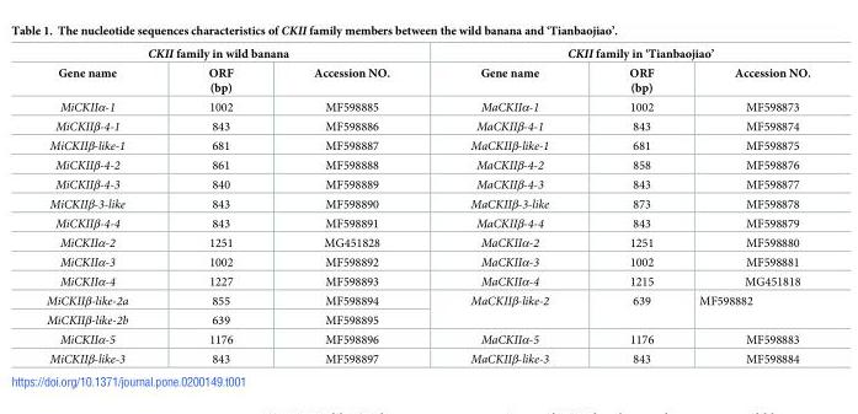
<table><thead><tr><td colspan="3">CKII family in wild banana</td><td colspan="3">CKII family in ‘Tianbaojiao’</td></tr><tr><td>Gene name</td><td>ORF (bp)</td><td>Accession NO.</td><td>Gene name</td><td>ORF (bp)</td><td>Accession NO.</td></tr></thead><tbody><tr><td>MiCKIIα-1</td><td>1002</td><td>MF598885</td><td>MaCKIIα-1</td><td>1002</td><td>MF598873</td></tr><tr><td>MiCKIIβ-4-1</td><td>843</td><td>MF598886</td><td>MaCKIIβ-4-1</td><td>843</td><td>MF598874</td></tr><tr><td>MiCKIIβ-like-1</td><td>681</td><td>MF598887</td><td>MaCKIIβ-like-1</td><td>681</td><td>MF598875</td></tr><tr><td>MiCKIIβ-4-2</td><td>861</td><td>MF598888</td><td>MaCKIIβ-4-2</td><td>858</td><td>MF598876</td></tr><tr><td>MiCKIIβ-4-3</td><td>840</td><td>MF598889</td><td>MaCKIIβ-4-3</td><td>843</td><td>MF598877</td></tr><tr><td>MiCKIIβ-3-like</td><td>843</td><td>MF598890</td><td>MaCKIIβ-3-like</td><td>873</td><td>MF598878</td></tr><tr><td>MiCKIIβ-4-4</td><td>843</td><td>MF598891</td><td>MaCKIIβ-4-4</td><td>843</td><td>MF598879</td></tr><tr><td>MiCKIIα-2</td><td>1251</td><td>MG451828</td><td>MaCKIIα-2</td><td>1251</td><td>MF598880</td></tr><tr><td>MiCKIIα-3</td><td>1002</td><td>MF598892</td><td>MaCKIIα-3</td><td>1002</td><td>MF598881</td></tr><tr><td>MiCKIIα-4</td><td>1227</td><td>MF598893</td><td>MaCKIIα-4</td><td>1215</td><td>MG451818</td></tr><tr><td>MiCKIIβ-like-2a</td><td>855</td><td>MF598894</td><td rowspan="2">MaCKIIβ-like-2</td><td rowspan="2">639</td><td rowspan="2">MF598882</td></tr><tr><td>MiCKIIβ-like-2b</td><td>639</td><td>MF598895</td></tr><tr><td>MiCKIIα-5</td><td>1176</td><td>MF598896</td><td>MaCKIIα-5</td><td>1176</td><td>MF598883</td></tr><tr><td>MiCKIIβ-like-3</td><td>843</td><td>MF598897</td><td>MaCKIIβ-like-3</td><td>843</td><td>MF598884</td></tr></tbody></table>